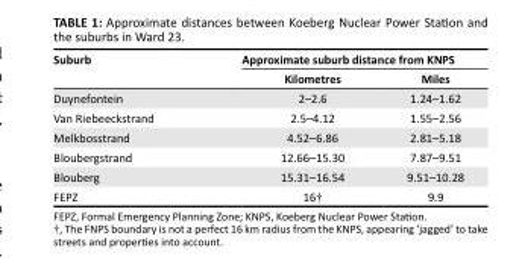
<table><thead><tr><td rowspan="2">Suburb</td><td colspan="2">Approximate suburb distance from KNPS</td></tr><tr><td>Kilometres</td><td>Miles</td></tr></thead><tbody><tr><td>Duynefontein</td><td>2–2.6</td><td>1.24–1.62</td></tr><tr><td>Van Riebeeckstrand</td><td>2.5–4.12</td><td>1.55–2.56</td></tr><tr><td>Melkbosstrand</td><td>4.52–6.86</td><td>2.81–5.18</td></tr><tr><td>Bloubergstrand</td><td>12.66–15.30</td><td>7.87–9.51</td></tr><tr><td>Blouberg</td><td>15.31–16.54</td><td>9.51–10.28</td></tr><tr><td>FEPZ</td><td>16†</td><td>9.9</td></tr></tbody></table>